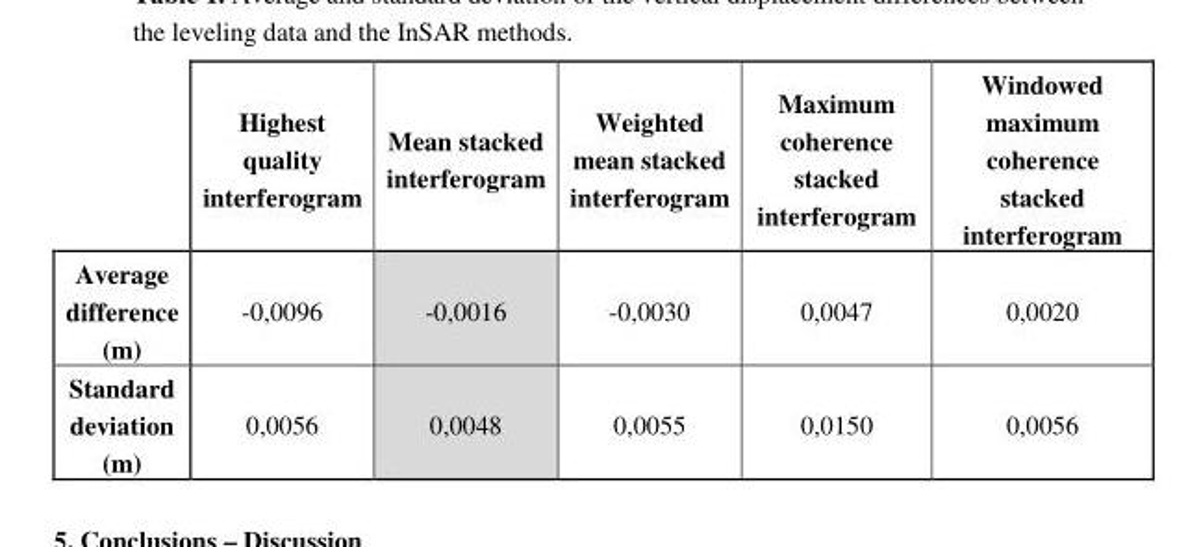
<table><thead><tr><td></td><td>Highest quality interferogram</td><td>Mean stacked interferogram</td><td>Weighted mean stacked interferogram</td><td>Maximum coherence stacked interferogram</td><td>Windowed maximum coherence stacked interferogram</td></tr></thead><tbody><tr><td>Average difference (m)</td><td>-0,0096</td><td>-0,0016</td><td>-0,0030</td><td>0,0047</td><td>0,0020</td></tr><tr><td>Standard deviation (m)</td><td>0,0056</td><td>0,0048</td><td>0,0055</td><td>0,0150</td><td>0,0056</td></tr></tbody></table>